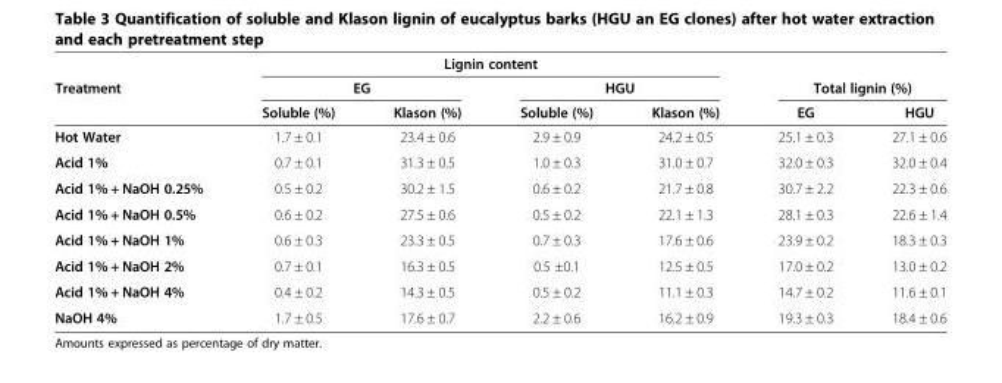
<table><thead><tr><td rowspan="3">Treatment</td><td colspan="4">Lignin content</td><td></td><td></td></tr><tr><td colspan="2">EG</td><td colspan="2">HGU</td><td colspan="2">Total lignin (%)</td></tr><tr><td>Soluble (%)</td><td>Klason (%)</td><td>Soluble (%)</td><td>Klason (%)</td><td>EG</td><td>HGU</td></tr></thead><tbody><tr><td>Hot Water</td><td>1.7 ± 0.1</td><td>23.4 ± 0.6</td><td>2.9 ± 0.9</td><td>24.2 ± 0.5</td><td>25.1 ± 0.3</td><td>27.1 ± 0.6</td></tr><tr><td>Acid 1%</td><td>0.7 ± 0.1</td><td>31.3 ± 0.5</td><td>1.0 ± 0.3</td><td>31.0 ± 0.7</td><td>32.0 ± 0.3</td><td>32.0 ± 0.4</td></tr><tr><td>Acid 1% + NaOH 0.25%</td><td>0.5 ± 0.2</td><td>30.2 ± 1.5</td><td>0.6 ± 0.2</td><td>21.7 ± 0.8</td><td>30.7 ± 2.2</td><td>22.3 ± 0.6</td></tr><tr><td>Acid 1% + NaOH 0.5%</td><td>0.6 ± 0.2</td><td>27.5 ± 0.6</td><td>0.5 ± 0.2</td><td>22.1 ± 1.3</td><td>28.1 ± 0.3</td><td>22.6 ± 1.4</td></tr><tr><td>Acid 1% + NaOH 1%</td><td>0.6 ± 0.3</td><td>23.3 ± 0.5</td><td>0.7 ± 0.3</td><td>17.6 ± 0.6</td><td>23.9 ± 0.2</td><td>18.3 ± 0.3</td></tr><tr><td>Acid 1% + NaOH 2%</td><td>0.7 ± 0.1</td><td>16.3 ± 0.5</td><td>0.5 ±0.1</td><td>12.5 ± 0.5</td><td>17.0 ± 0.2</td><td>13.0 ± 0.2</td></tr><tr><td>Acid 1% + NaOH 4%</td><td>0.4 ± 0.2</td><td>14.3 ± 0.5</td><td>0.5 ± 0.2</td><td>11.1 ± 0.3</td><td>14.7 ± 0.2</td><td>11.6 ± 0.1</td></tr><tr><td>NaOH 4%</td><td>1.7 ± 0.5</td><td>17.6 ± 0.7</td><td>2.2 ± 0.6</td><td>16.2 ± 0.9</td><td>19.3 ± 0.3</td><td>18.4 ± 0.6</td></tr></tbody></table>